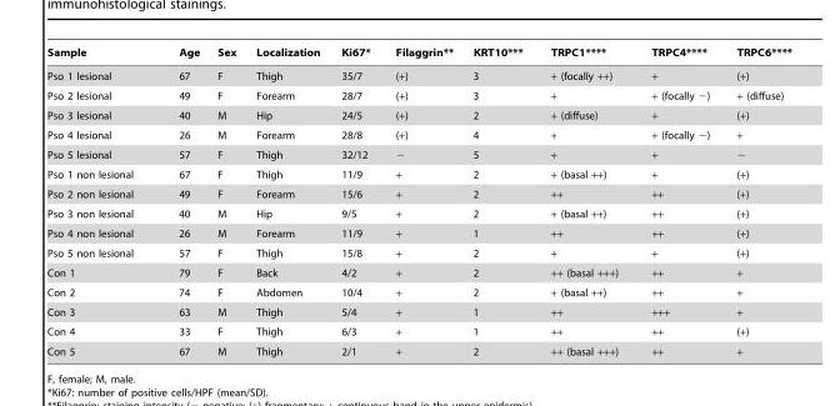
<table><thead><tr><td>Sample</td><td>Age</td><td>Sex</td><td>Localization</td><td>Ki67*</td><td>Filaggrin**</td><td>KRT10***</td><td>TRPC1****</td><td>TRPC4****</td><td>TRPC6****</td></tr></thead><tbody><tr><td>Pso 1 lesional</td><td>67</td><td>F</td><td>Thigh</td><td>35/7</td><td>(+)</td><td>3</td><td>+ (focally ++)</td><td>+</td><td>(+)</td></tr><tr><td>Pso 2 lesional</td><td>49</td><td>F</td><td>Forearm</td><td>28/7</td><td>(+)</td><td>3</td><td>+</td><td>+ (focally −)</td><td>+ (diffuse)</td></tr><tr><td>Pso 3 lesional</td><td>40</td><td>M</td><td>Hip</td><td>24/5</td><td>(+)</td><td>2</td><td>+ (diffuse)</td><td>+</td><td>(+)</td></tr><tr><td>Pso 4 lesional</td><td>26</td><td>M</td><td>Forearm</td><td>28/8</td><td>(+)</td><td>4</td><td>+</td><td>+ (focally −)</td><td>+</td></tr><tr><td>Pso 5 lesional</td><td>57</td><td>F</td><td>Thigh</td><td>32/12</td><td>−</td><td>5</td><td>+</td><td>+</td><td>−</td></tr><tr><td>Pso 1 non lesional</td><td>67</td><td>F</td><td>Thigh</td><td>11/9</td><td>+</td><td>2</td><td>+ (basal ++)</td><td>+</td><td>(+)</td></tr><tr><td>Pso 2 non lesional</td><td>49</td><td>F</td><td>Forearm</td><td>15/6</td><td>+</td><td>2</td><td>++</td><td>++</td><td>(+)</td></tr><tr><td>Pso 3 non lesional</td><td>40</td><td>M</td><td>Hip</td><td>9/5</td><td>+</td><td>2</td><td>+ (basal ++)</td><td>++</td><td>(+)</td></tr><tr><td>Pso 4 non lesional</td><td>26</td><td>M</td><td>Forearm</td><td>11/9</td><td>+</td><td>1</td><td>++</td><td>++</td><td>(+)</td></tr><tr><td>Pso 5 non lesional</td><td>57</td><td>F</td><td>Thigh</td><td>15/8</td><td>+</td><td>2</td><td>+</td><td>+</td><td>(+)</td></tr><tr><td>Con 1</td><td>79</td><td>F</td><td>Back</td><td>4/2</td><td>+</td><td>2</td><td>++ (basal +++)</td><td>++</td><td>+</td></tr><tr><td>Con 2</td><td>74</td><td>F</td><td>Abdomen</td><td>10/4</td><td>+</td><td>2</td><td>+ (basal ++)</td><td>++</td><td>+</td></tr><tr><td>Con 3</td><td>63</td><td>M</td><td>Thigh</td><td>5/4</td><td>+</td><td>1</td><td>++</td><td>+++</td><td>+</td></tr><tr><td>Con 4</td><td>33</td><td>F</td><td>Thigh</td><td>6/3</td><td>+</td><td>1</td><td>++</td><td>++</td><td>(+)</td></tr><tr><td>Con 5</td><td>67</td><td>M</td><td>Thigh</td><td>2/1</td><td>+</td><td>2</td><td>++ (basal +++)</td><td>++</td><td>+</td></tr></tbody></table>